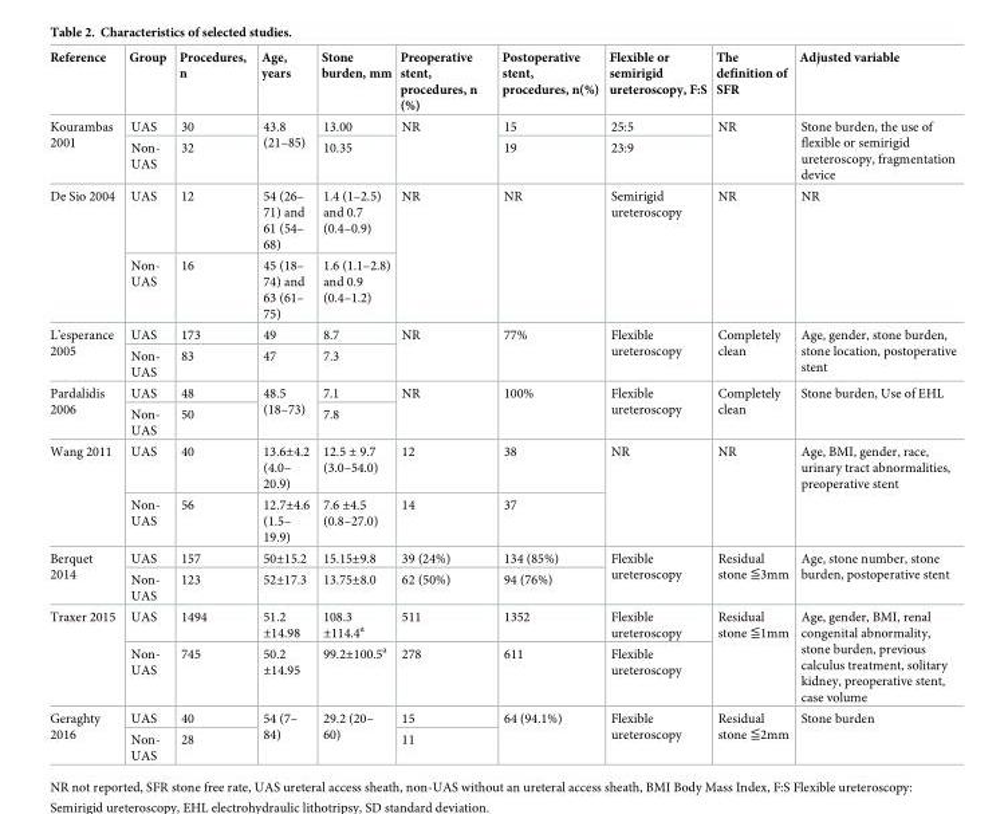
<table><thead><tr><td>Reference</td><td>Group</td><td>Procedures, n</td><td>Age, years</td><td>Stone burden, mm</td><td>Preoperative stent, procedures, n (%)</td><td>Postoperative stent, procedures, n(%)</td><td>Flexible or semirigid ureteroscopy, F:S</td><td>The definition of SFR</td><td>Adjusted variable</td></tr></thead><tbody><tr><td rowspan="2">Kourambas 2001</td><td>UAS</td><td>30</td><td rowspan="2">43.8 (21–85)</td><td>13.00</td><td rowspan="2">NR</td><td>15</td><td>25:5</td><td rowspan="2">NR</td><td rowspan="2">Stone burden, the use of flexible or semirigid ureteroscopy, fragmentation device</td></tr><tr><td>Non- UAS</td><td>32</td><td>10.35</td><td>19</td><td>23:9</td></tr><tr><td rowspan="2">De Sio 2004</td><td>UAS</td><td>12</td><td>54 (26– 71) and 61 (54– 68)</td><td>1.4 (1–2.5) and 0.7 (0.4–0.9)</td><td rowspan="2">NR</td><td rowspan="2">NR</td><td rowspan="2">Semirigid ureteroscopy</td><td rowspan="2">NR</td><td rowspan="2">NR</td></tr><tr><td>Non- UAS</td><td>16</td><td>45 (18– 74) and 63 (61– 75)</td><td>1.6 (1.1–2.8) and 0.9 (0.4–1.2)</td></tr><tr><td rowspan="2">L’esperance 2005</td><td>UAS</td><td>173</td><td>49</td><td>8.7</td><td rowspan="2">NR</td><td rowspan="2">77%</td><td rowspan="2">Flexible ureteroscopy</td><td rowspan="2">Completely clean</td><td rowspan="2">Age, gender, stone burden, stone location, postoperative stent</td></tr><tr><td>Non- UAS</td><td>83</td><td>47</td><td>7.3</td></tr><tr><td rowspan="2">Pardalidis 2006</td><td>UAS</td><td>48</td><td rowspan="2">48.5 (18–73)</td><td>7.1</td><td rowspan="2">NR</td><td rowspan="2">100%</td><td rowspan="2">Flexible ureteroscopy</td><td rowspan="2">Completely clean</td><td rowspan="2">Stone burden, Use of EHL</td></tr><tr><td>Non- UAS</td><td>50</td><td>7.8</td></tr><tr><td rowspan="2">Wang 2011</td><td>UAS</td><td>40</td><td>13.6±4.2 (4.0– 20.9)</td><td>12.5 ± 9.7 (3.0–54.0)</td><td>12</td><td>38</td><td rowspan="2">NR</td><td rowspan="2">NR</td><td rowspan="2">Age, BMI, gender, race, urinary tract abnormalities, preoperative stent</td></tr><tr><td>Non- UAS</td><td>56</td><td>12.7±4.6 (1.5– 19.9)</td><td>7.6 ±4.5 (0.8–27.0)</td><td>14</td><td>37</td></tr><tr><td rowspan="2">Berquet 2014</td><td>UAS</td><td>157</td><td>50±15.2</td><td>15.15±9.8</td><td>39 (24%)</td><td>134 (85%)</td><td rowspan="2">Flexible ureteroscopy</td><td rowspan="2">Residual stone ≦3mm</td><td rowspan="2">Age, stone number, stone burden, postoperative stent</td></tr><tr><td>Non- UAS</td><td>123</td><td>52±17.3</td><td>13.75±8.0</td><td>62 (50%)</td><td>94 (76%)</td></tr><tr><td rowspan="2">Traxer 2015</td><td>UAS</td><td>1494</td><td>51.2 ±14.98</td><td>108.3 ±114.4<sup>a</sup></td><td>511</td><td>1352</td><td>Flexible ureteroscopy</td><td rowspan="2">Residual stone ≦1mm</td><td rowspan="2">Age, gender, BMI, renal congenital abnormality, stone burden, previous calculus treatment, solitary kidney, preoperative stent, case volume</td></tr><tr><td>Non- UAS</td><td>745</td><td>50.2 ±14.95</td><td>99.2±100.5<sup>a</sup></td><td>278</td><td>611</td><td>Flexible ureteroscopy</td></tr><tr><td rowspan="2">Geraghty 2016</td><td>UAS</td><td>40</td><td rowspan="2">54 (7– 84)</td><td rowspan="2">29.2 (20– 60)</td><td>15</td><td rowspan="2">64 (94.1%)</td><td rowspan="2">Flexible ureteroscopy</td><td rowspan="2">Residual stone ≦2mm</td><td rowspan="2">Stone burden</td></tr><tr><td>Non- UAS</td><td>28</td><td>11</td></tr></tbody></table>